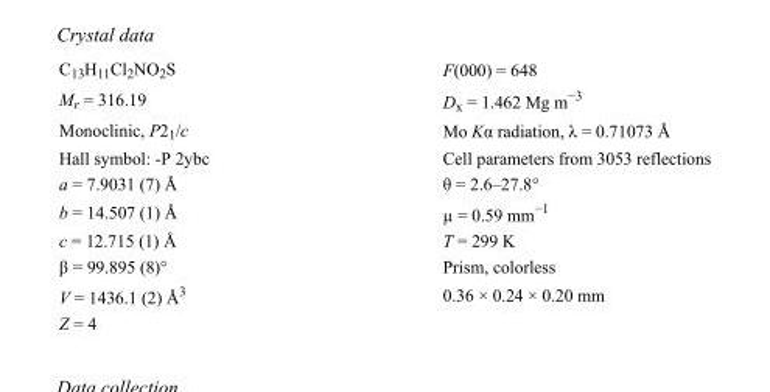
<table><tbody><tr><td>C<sub>13</sub>H<sub>11</sub>Cl<sub>2</sub>NO<sub>2</sub>S</td><td>F(000) = 648</td></tr><tr><td>M<sub>r</sub> = 316.19</td><td>D<sub>x</sub> = 1.462 Mg m<sup>−3</sup></td></tr><tr><td>Monoclinic, P2<sub>1</sub>/c</td><td>Mo Kα radiation, λ = 0.71073 Å</td></tr><tr><td>Hall symbol: -P 2ybc</td><td>Cell parameters from 3053 reflections</td></tr><tr><td>a = 7.9031 (7) Å</td><td>θ = 2.6–27.8°</td></tr><tr><td>b = 14.507 (1) Å</td><td>µ = 0.59 mm<sup>−1</sup></td></tr><tr><td>c = 12.715 (1) Å</td><td>T = 299 K</td></tr><tr><td>β = 99.895 (8)°</td><td>Prism, colorless</td></tr><tr><td>V = 1436.1 (2) Å<sup>3</sup></td><td>0.36 × 0.24 × 0.20 mm</td></tr><tr><td>Z = 4</td><td></td></tr></tbody></table>